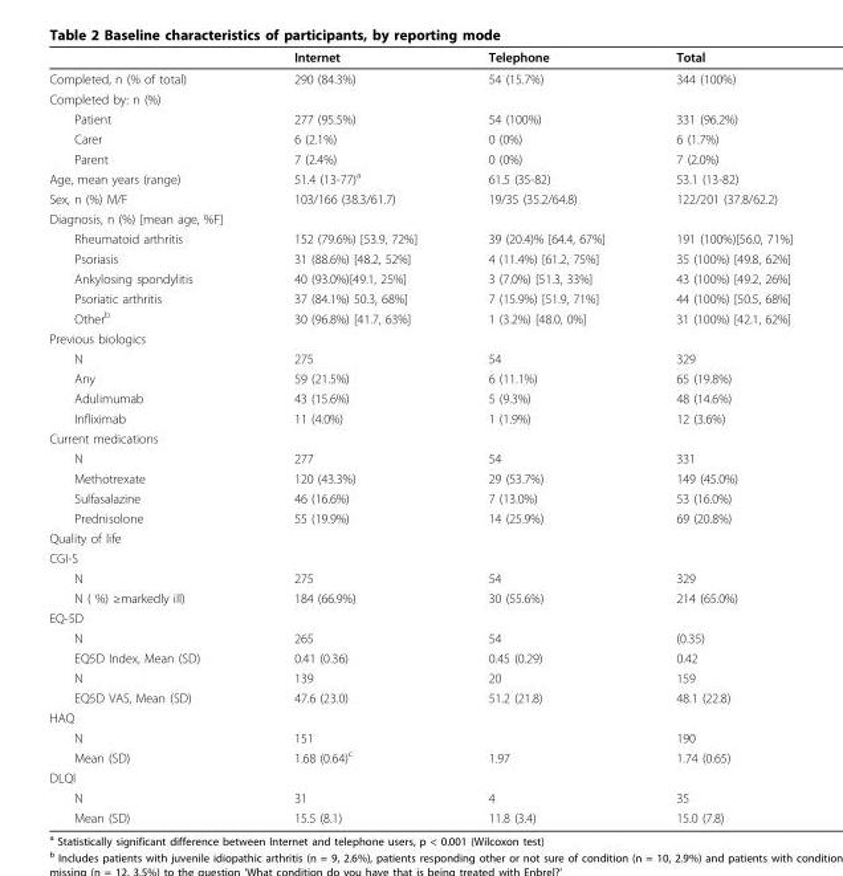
<table><thead><tr><td></td><td>Internet</td><td>Telephone</td><td>Total</td></tr></thead><tbody><tr><td>Completed, n (% of total)</td><td>290 (84.3%)</td><td>54 (15.7%)</td><td>344 (100%)</td></tr><tr><td colspan="4">Completed by: n (%)</td></tr><tr><td>Patient</td><td>277 (95.5%)</td><td>54 (100%)</td><td>331 (96.2%)</td></tr><tr><td>Carer</td><td>6 (2.1%)</td><td>0 (0%)</td><td>6 (1.7%)</td></tr><tr><td>Parent</td><td>7 (2.4%)</td><td>0 (0%)</td><td>7 (2.0%)</td></tr><tr><td>Age, mean years (range)</td><td>51.4 (13-77)<sup>a</sup></td><td>61.5 (35-82)</td><td>53.1 (13-82)</td></tr><tr><td>Sex, n (%) M/F</td><td>103/166 (38.3/61.7)</td><td>19/35 (35.2/64.8)</td><td>122/201 (37.8/62.2)</td></tr><tr><td colspan="4">Diagnosis, n (%) [mean age, %F]</td></tr><tr><td>Rheumatoid arthritis</td><td>152 (79.6%) [53.9, 72%]</td><td>39 (20.4)% [64.4, 67%]</td><td>191 (100%)[56.0, 71%]</td></tr><tr><td>Psoriasis</td><td>31 (88.6%) [48.2, 52%]</td><td>4 (11.4%) [61.2, 75%]</td><td>35 (100%) [49.8, 62%]</td></tr><tr><td>Ankylosing spondylitis</td><td>40 (93.0%)[49.1, 25%]</td><td>3 (7.0%) [51.3, 33%]</td><td>43 (100%) [49.2, 26%]</td></tr><tr><td>Psoriatic arthritis</td><td>37 (84.1%) 50.3, 68%]</td><td>7 (15.9%) [51.9, 71%]</td><td>44 (100%) [50.5, 68%]</td></tr><tr><td>Other<sup>b</sup></td><td>30 (96.8%) [41.7, 63%]</td><td>1 (3.2%) [48.0, 0%]</td><td>31 (100%) [42.1, 62%]</td></tr><tr><td colspan="4">Previous biologics</td></tr><tr><td>N</td><td>275</td><td>54</td><td>329</td></tr><tr><td>Any</td><td>59 (21.5%)</td><td>6 (11.1%)</td><td>65 (19.8%)</td></tr><tr><td>Adulimumab</td><td>43 (15.6%)</td><td>5 (9.3%)</td><td>48 (14.6%)</td></tr><tr><td>Infliximab</td><td>11 (4.0%)</td><td>1 (1.9%)</td><td>12 (3.6%)</td></tr><tr><td colspan="4">Current medications</td></tr><tr><td>N</td><td>277</td><td>54</td><td>331</td></tr><tr><td>Methotrexate</td><td>120 (43.3%)</td><td>29 (53.7%)</td><td>149 (45.0%)</td></tr><tr><td>Sulfasalazine</td><td>46 (16.6%)</td><td>7 (13.0%)</td><td>53 (16.0%)</td></tr><tr><td>Prednisolone</td><td>55 (19.9%)</td><td>14 (25.9%)</td><td>69 (20.8%)</td></tr><tr><td colspan="4">Quality of life</td></tr><tr><td colspan="4">CGI-S</td></tr><tr><td>N</td><td>275</td><td>54</td><td>329</td></tr><tr><td>N ( %) ≥markedly ill)</td><td>184 (66.9%)</td><td>30 (55.6%)</td><td>214 (65.0%)</td></tr><tr><td colspan="4">EQ-5D</td></tr><tr><td>N</td><td>265</td><td>54</td><td>(0.35)</td></tr><tr><td>EQ5D Index, Mean (SD)</td><td>0.41 (0.36)</td><td>0.45 (0.29)</td><td>0.42</td></tr><tr><td>N</td><td>139</td><td>20</td><td>159</td></tr><tr><td>EQ5D VAS, Mean (SD)</td><td>47.6 (23.0)</td><td>51.2 (21.8)</td><td>48.1 (22.8)</td></tr><tr><td colspan="4">HAQ</td></tr><tr><td>N</td><td>151</td><td></td><td>190</td></tr><tr><td>Mean (SD)</td><td>1.68 (0.64)<sup>c</sup></td><td>1.97</td><td>1.74 (0.65)</td></tr><tr><td colspan="4">DLQI</td></tr><tr><td>N</td><td>31</td><td>4</td><td>35</td></tr><tr><td>Mean (SD)</td><td>15.5 (8.1)</td><td>11.8 (3.4)</td><td>15.0 (7.8)</td></tr></tbody></table>